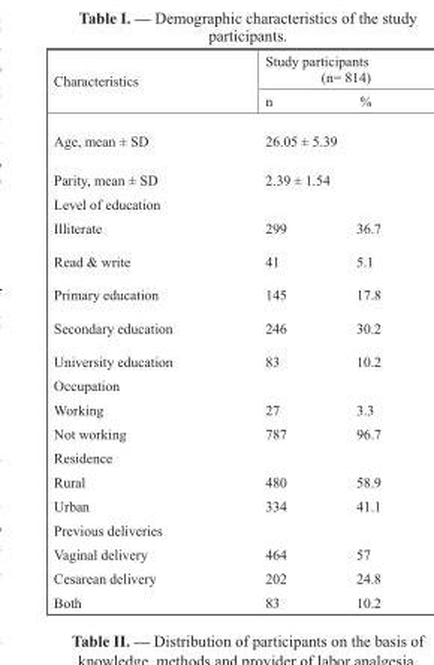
<table><thead><tr><td rowspan="2">Characteristics</td><td colspan="2">Study participants (n= 814)</td></tr><tr><td>n</td><td>%</td></tr></thead><tbody><tr><td>Age, mean ± SD</td><td>26.05 ± 5.39</td><td></td></tr><tr><td>Parity, mean ± SD</td><td>2.39 ± 1.54</td><td></td></tr><tr><td colspan="3">Level of education</td></tr><tr><td>Illiterate</td><td>299</td><td>36.7</td></tr><tr><td>Read &amp; write</td><td>41</td><td>5.1</td></tr><tr><td>Primary education</td><td>145</td><td>17.8</td></tr><tr><td>Secondary education</td><td>246</td><td>30.2</td></tr><tr><td>University education</td><td>83</td><td>10.2</td></tr><tr><td colspan="3">Occupation</td></tr><tr><td>Working</td><td>27</td><td>3.3</td></tr><tr><td>Not working</td><td>787</td><td>96.7</td></tr><tr><td colspan="3">Residence</td></tr><tr><td>Rural</td><td>480</td><td>58.9</td></tr><tr><td>Urban</td><td>334</td><td>41.1</td></tr><tr><td colspan="3">Previous deliveries</td></tr><tr><td>Vaginal delivery</td><td>464</td><td>57</td></tr><tr><td>Cesarean delivery</td><td>202</td><td>24.8</td></tr><tr><td>Both</td><td>83</td><td>10.2</td></tr></tbody></table>